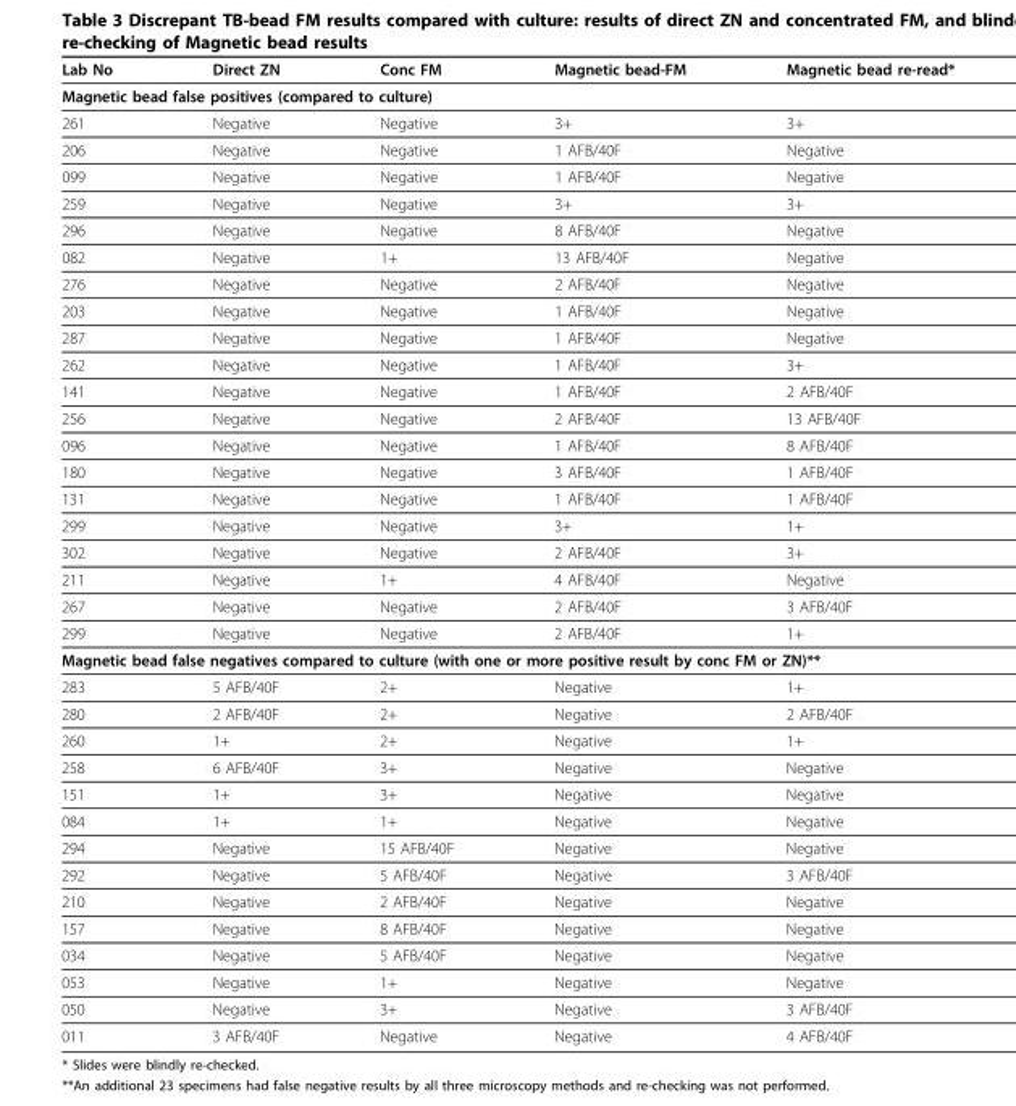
<table><thead><tr><td>Lab No</td><td>Direct ZN</td><td>Conc FM</td><td>Magnetic bead-FM</td><td>Magnetic bead re-read*</td></tr></thead><tbody><tr><td colspan="5">Magnetic bead false positives (compared to culture)</td></tr><tr><td>261</td><td>Negative</td><td>Negative</td><td>3+</td><td>3+</td></tr><tr><td>206</td><td>Negative</td><td>Negative</td><td>1 AFB/40F</td><td>Negative</td></tr><tr><td>099</td><td>Negative</td><td>Negative</td><td>1 AFB/40F</td><td>Negative</td></tr><tr><td>259</td><td>Negative</td><td>Negative</td><td>3+</td><td>3+</td></tr><tr><td>296</td><td>Negative</td><td>Negative</td><td>8 AFB/40F</td><td>Negative</td></tr><tr><td>082</td><td>Negative</td><td>1+</td><td>13 AFB/40F</td><td>Negative</td></tr><tr><td>276</td><td>Negative</td><td>Negative</td><td>2 AFB/40F</td><td>Negative</td></tr><tr><td>203</td><td>Negative</td><td>Negative</td><td>1 AFB/40F</td><td>Negative</td></tr><tr><td>287</td><td>Negative</td><td>Negative</td><td>1 AFB/40F</td><td>Negative</td></tr><tr><td>262</td><td>Negative</td><td>Negative</td><td>1 AFB/40F</td><td>3+</td></tr><tr><td>141</td><td>Negative</td><td>Negative</td><td>1 AFB/40F</td><td>2 AFB/40F</td></tr><tr><td>256</td><td>Negative</td><td>Negative</td><td>2 AFB/40F</td><td>13 AFB/40F</td></tr><tr><td>096</td><td>Negative</td><td>Negative</td><td>1 AFB/40F</td><td>8 AFB/40F</td></tr><tr><td>180</td><td>Negative</td><td>Negative</td><td>3 AFB/40F</td><td>1 AFB/40F</td></tr><tr><td>131</td><td>Negative</td><td>Negative</td><td>1 AFB/40F</td><td>1 AFB/40F</td></tr><tr><td>299</td><td>Negative</td><td>Negative</td><td>3+</td><td>1+</td></tr><tr><td>302</td><td>Negative</td><td>Negative</td><td>2 AFB/40F</td><td>3+</td></tr><tr><td>211</td><td>Negative</td><td>1+</td><td>4 AFB/40F</td><td>Negative</td></tr><tr><td>267</td><td>Negative</td><td>Negative</td><td>2 AFB/40F</td><td>3 AFB/40F</td></tr><tr><td>299</td><td>Negative</td><td>Negative</td><td>2 AFB/40F</td><td>1+</td></tr><tr><td colspan="5">Magnetic bead false negatives compared to culture (with one or more positive result by conc FM or ZN)**</td></tr><tr><td>283</td><td>5 AFB/40F</td><td>2+</td><td>Negative</td><td>1+</td></tr><tr><td>280</td><td>2 AFB/40F</td><td>2+</td><td>Negative</td><td>2 AFB/40F</td></tr><tr><td>260</td><td>1+</td><td>2+</td><td>Negative</td><td>1+</td></tr><tr><td>258</td><td>6 AFB/40F</td><td>3+</td><td>Negative</td><td>Negative</td></tr><tr><td>151</td><td>1+</td><td>3+</td><td>Negative</td><td>Negative</td></tr><tr><td>084</td><td>1+</td><td>1+</td><td>Negative</td><td>Negative</td></tr><tr><td>294</td><td>Negative</td><td>15 AFB/40F</td><td>Negative</td><td>Negative</td></tr><tr><td>292</td><td>Negative</td><td>5 AFB/40F</td><td>Negative</td><td>3 AFB/40F</td></tr><tr><td>210</td><td>Negative</td><td>2 AFB/40F</td><td>Negative</td><td>Negative</td></tr><tr><td>157</td><td>Negative</td><td>8 AFB/40F</td><td>Negative</td><td>Negative</td></tr><tr><td>034</td><td>Negative</td><td>5 AFB/40F</td><td>Negative</td><td>Negative</td></tr><tr><td>053</td><td>Negative</td><td>1+</td><td>Negative</td><td>Negative</td></tr><tr><td>050</td><td>Negative</td><td>3+</td><td>Negative</td><td>3 AFB/40F</td></tr><tr><td>011</td><td>3 AFB/40F</td><td>Negative</td><td>Negative</td><td>4 AFB/40F</td></tr></tbody></table>